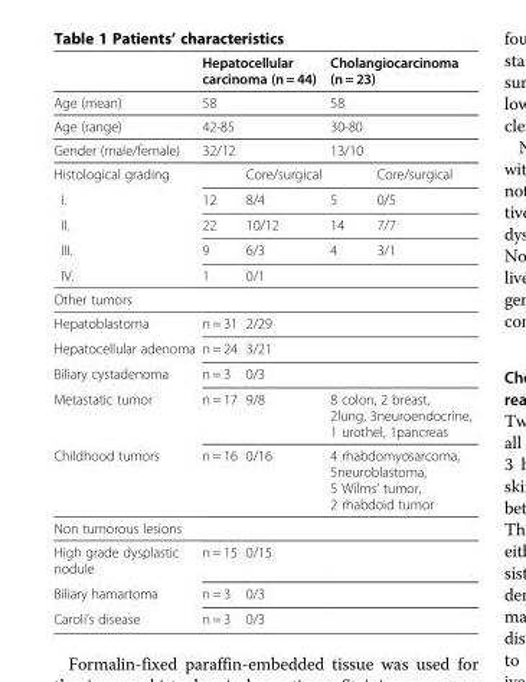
<table><thead><tr><td></td><td colspan="2">Hepatocellular carcinoma (n = 44)</td><td colspan="2">Cholangiocarcinoma (n = 23)</td></tr></thead><tbody><tr><td>Age (mean)</td><td colspan="2">58</td><td colspan="2">58</td></tr><tr><td>Age (range)</td><td colspan="2">42-85</td><td colspan="2">30-80</td></tr><tr><td>Gender (male/female)</td><td colspan="2">32/12</td><td colspan="2">13/10</td></tr><tr><td>Histological grading</td><td colspan="2">Core/surgical</td><td colspan="2">Core/surgical</td></tr><tr><td>I.</td><td>12</td><td>8/4</td><td>5</td><td>0/5</td></tr><tr><td>II.</td><td>22</td><td>10/12</td><td>14</td><td>7/7</td></tr><tr><td>III.</td><td>9</td><td>6/3</td><td>4</td><td>3/1</td></tr><tr><td>IV.</td><td>1</td><td>0/1</td><td></td><td></td></tr><tr><td colspan="5">Other tumors</td></tr><tr><td>Hepatoblastoma</td><td>n = 31</td><td>2/29</td><td></td><td></td></tr><tr><td>Hepatocellular adenoma</td><td>n = 24</td><td>3/21</td><td></td><td></td></tr><tr><td>Biliary cystadenoma</td><td>n = 3</td><td>0/3</td><td></td><td></td></tr><tr><td>Metastatic tumor</td><td>n = 17</td><td>9/8</td><td colspan="2">8 colon, 2 breast, 2lung, 3neuroendocrine, 1 urothel, 1pancreas</td></tr><tr><td>Childhood tumors</td><td>n = 16</td><td>0/16</td><td colspan="2">4 rhabdomyosarcoma, 5neuroblastoma, 5 Wilms’ tumor, 2 rhabdoid tumor</td></tr><tr><td colspan="5">Non tumorous lesions</td></tr><tr><td>High grade dysplastic nodule</td><td>n = 15</td><td>0/15</td><td></td><td></td></tr><tr><td>Biliary hamartoma</td><td>n = 3</td><td>0/3</td><td></td><td></td></tr><tr><td>Caroli’s disease</td><td>n = 3</td><td>0/3</td><td></td><td></td></tr></tbody></table>